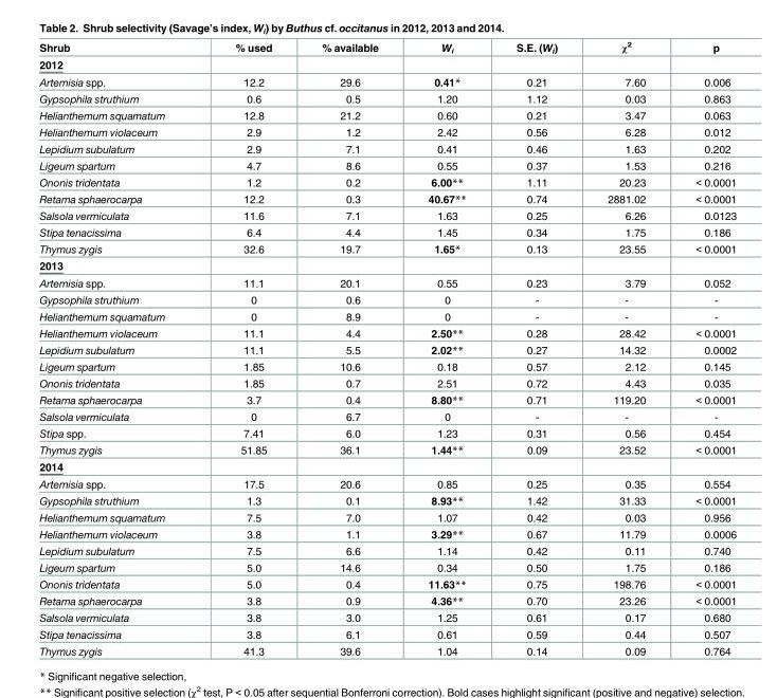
<table><thead><tr><td>Shrub</td><td>% used</td><td>% available</td><td>W<sub>i</sub></td><td>S.E. (W<sub>i</sub>)</td><td>χ<sup>2</sup></td><td>p</td></tr></thead><tbody><tr><td colspan="7">2012</td></tr><tr><td>Artemisia spp.</td><td>12.2</td><td>29.6</td><td>0.41*</td><td>0.21</td><td>7.60</td><td>0.006</td></tr><tr><td>Gypsophila struthium</td><td>0.6</td><td>0.5</td><td>1.20</td><td>1.12</td><td>0.03</td><td>0.863</td></tr><tr><td>Helianthemum squamatum</td><td>12.8</td><td>21.2</td><td>0.60</td><td>0.21</td><td>3.47</td><td>0.063</td></tr><tr><td>Helianthemum violaceum</td><td>2.9</td><td>1.2</td><td>2.42</td><td>0.56</td><td>6.28</td><td>0.012</td></tr><tr><td>Lepidium subulatum</td><td>2.9</td><td>7.1</td><td>0.41</td><td>0.46</td><td>1.63</td><td>0.202</td></tr><tr><td>Ligeum spartum</td><td>4.7</td><td>8.6</td><td>0.55</td><td>0.37</td><td>1.53</td><td>0.216</td></tr><tr><td>Ononis tridentata</td><td>1.2</td><td>0.2</td><td>6.00**</td><td>1.11</td><td>20.23</td><td>&lt; 0.0001</td></tr><tr><td>Retama sphaerocarpa</td><td>12.2</td><td>0.3</td><td>40.67**</td><td>0.74</td><td>2881.02</td><td>&lt; 0.0001</td></tr><tr><td>Salsola vermiculata</td><td>11.6</td><td>7.1</td><td>1.63</td><td>0.25</td><td>6.26</td><td>0.0123</td></tr><tr><td>Stipa tenacissima</td><td>6.4</td><td>4.4</td><td>1.45</td><td>0.34</td><td>1.75</td><td>0.186</td></tr><tr><td>Thymus zygis</td><td>32.6</td><td>19.7</td><td>1.65*</td><td>0.13</td><td>23.55</td><td>&lt; 0.0001</td></tr><tr><td colspan="7">2013</td></tr><tr><td>Artemisia spp.</td><td>11.1</td><td>20.1</td><td>0.55</td><td>0.23</td><td>3.79</td><td>0.052</td></tr><tr><td>Gypsophila struthium</td><td>0</td><td>0.6</td><td>0</td><td>-</td><td>-</td><td>-</td></tr><tr><td>Helianthemum squamatum</td><td>0</td><td>8.9</td><td>0</td><td>-</td><td>-</td><td>-</td></tr><tr><td>Helianthemum violaceum</td><td>11.1</td><td>4.4</td><td>2.50**</td><td>0.28</td><td>28.42</td><td>&lt; 0.0001</td></tr><tr><td>Lepidium subulatum</td><td>11.1</td><td>5.5</td><td>2.02**</td><td>0.27</td><td>14.32</td><td>0.0002</td></tr><tr><td>Ligeum spartum</td><td>1.85</td><td>10.6</td><td>0.18</td><td>0.57</td><td>2.12</td><td>0.145</td></tr><tr><td>Ononis tridentata</td><td>1.85</td><td>0.7</td><td>2.51</td><td>0.72</td><td>4.43</td><td>0.035</td></tr><tr><td>Retama sphaerocarpa</td><td>3.7</td><td>0.4</td><td>8.80**</td><td>0.71</td><td>119.20</td><td>&lt; 0.0001</td></tr><tr><td>Salsola vermiculata</td><td>0</td><td>6.7</td><td>0</td><td>-</td><td>-</td><td>-</td></tr><tr><td>Stipa spp.</td><td>7.41</td><td>6.0</td><td>1.23</td><td>0.31</td><td>0.56</td><td>0.454</td></tr><tr><td>Thymus zygis</td><td>51.85</td><td>36.1</td><td>1.44**</td><td>0.09</td><td>23.52</td><td>&lt; 0.0001</td></tr><tr><td colspan="7">2014</td></tr><tr><td>Artemisia spp.</td><td>17.5</td><td>20.6</td><td>0.85</td><td>0.25</td><td>0.35</td><td>0.554</td></tr><tr><td>Gypsophila struthium</td><td>1.3</td><td>0.1</td><td>8.93**</td><td>1.42</td><td>31.33</td><td>&lt; 0.0001</td></tr><tr><td>Helianthemum squamatum</td><td>7.5</td><td>7.0</td><td>1.07</td><td>0.42</td><td>0.03</td><td>0.956</td></tr><tr><td>Helianthemum violaceum</td><td>3.8</td><td>1.1</td><td>3.29**</td><td>0.67</td><td>11.79</td><td>0.0006</td></tr><tr><td>Lepidium subulatum</td><td>7.5</td><td>6.6</td><td>1.14</td><td>0.42</td><td>0.11</td><td>0.740</td></tr><tr><td>Ligeum spartum</td><td>5.0</td><td>14.6</td><td>0.34</td><td>0.50</td><td>1.75</td><td>0.186</td></tr><tr><td>Ononis tridentata</td><td>5.0</td><td>0.4</td><td>11.63**</td><td>0.75</td><td>198.76</td><td>&lt; 0.0001</td></tr><tr><td>Retama sphaerocarpa</td><td>3.8</td><td>0.9</td><td>4.36**</td><td>0.70</td><td>23.26</td><td>&lt; 0.0001</td></tr><tr><td>Salsola vermiculata</td><td>3.8</td><td>3.0</td><td>1.25</td><td>0.61</td><td>0.17</td><td>0.680</td></tr><tr><td>Stipa tenacissima</td><td>3.8</td><td>6.1</td><td>0.61</td><td>0.59</td><td>0.44</td><td>0.507</td></tr><tr><td>Thymus zygis</td><td>41.3</td><td>39.6</td><td>1.04</td><td>0.14</td><td>0.09</td><td>0.764</td></tr></tbody></table>